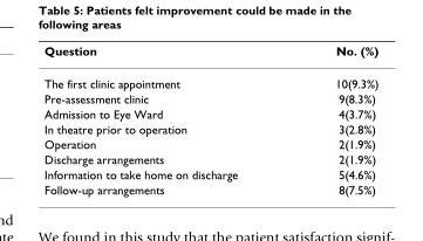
<table><thead><tr><td>Question</td><td>No. (%)</td></tr></thead><tbody><tr><td>The first clinic appointment</td><td>10(9.3%)</td></tr><tr><td>Pre-assessment clinic</td><td>9(8.3%)</td></tr><tr><td>Admission to Eye Ward</td><td>4(3.7%)</td></tr><tr><td>In theatre prior to operation</td><td>3(2.8%)</td></tr><tr><td>Operation</td><td>2(1.9%)</td></tr><tr><td>Discharge arrangements</td><td>2(1.9%)</td></tr><tr><td>Information to take home on discharge</td><td>5(4.6%)</td></tr><tr><td>Follow-up arrangements</td><td>8(7.5%)</td></tr></tbody></table>